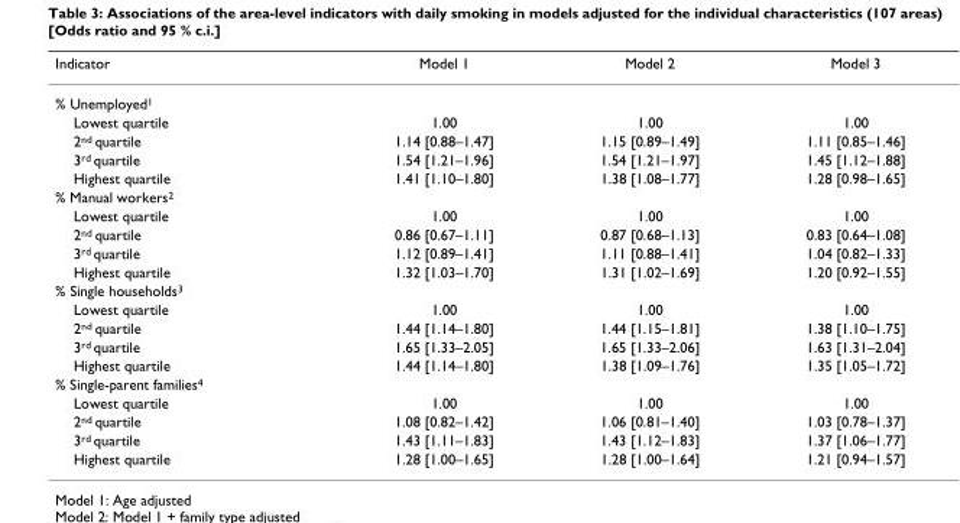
<table><thead><tr><td>Indicator</td><td>Model 1</td><td>Model 2</td><td>Model 3</td></tr></thead><tbody><tr><td colspan="4">% Unemployed<sup>1</sup></td></tr><tr><td>Lowest quartile</td><td>1.00</td><td>1.00</td><td>1.00</td></tr><tr><td>2<sup>nd</sup> quartile</td><td>1.14 [0.88–1.47]</td><td>1.15 [0.89–1.49]</td><td>1.11 [0.85–1.46]</td></tr><tr><td>3<sup>rd</sup> quartile</td><td>1.54 [1.21–1.96]</td><td>1.54 [1.21–1.97]</td><td>1.45 [1.12–1.88]</td></tr><tr><td>Highest quartile</td><td>1.41 [1.10–1.80]</td><td>1.38 [1.08–1.77]</td><td>1.28 [0.98–1.65]</td></tr><tr><td colspan="4">% Manual workers<sup>2</sup></td></tr><tr><td>Lowest quartile</td><td>1.00</td><td>1.00</td><td>1.00</td></tr><tr><td>2<sup>nd</sup> quartile</td><td>0.86 [0.67–1.11]</td><td>0.87 [0.68–1.13]</td><td>0.83 [0.64–1.08]</td></tr><tr><td>3<sup>rd</sup> quartile</td><td>1.12 [0.89–1.41]</td><td>1.11 [0.88–1.41]</td><td>1.04 [0.82–1.33]</td></tr><tr><td>Highest quartile</td><td>1.32 [1.03–1.70]</td><td>1.31 [1.02–1.69]</td><td>1.20 [0.92–1.55]</td></tr><tr><td colspan="4">% Single households<sup>3</sup></td></tr><tr><td>Lowest quartile</td><td>1.00</td><td>1.00</td><td>1.00</td></tr><tr><td>2<sup>nd</sup> quartile</td><td>1.44 [1.14–1.80]</td><td>1.44 [1.15–1.81]</td><td>1.38 [1.10–1.75]</td></tr><tr><td>3<sup>rd</sup> quartile</td><td>1.65 [1.33–2.05]</td><td>1.65 [1.33–2.06]</td><td>1.63 [1.31–2.04]</td></tr><tr><td>Highest quartile</td><td>1.44 [1.14–1.80]</td><td>1.38 [1.09–1.76]</td><td>1.35 [1.05–1.72]</td></tr><tr><td colspan="4">% Single-parent families<sup>4</sup></td></tr><tr><td>Lowest quartile</td><td>1.00</td><td>1.00</td><td>1.00</td></tr><tr><td>2<sup>nd</sup> quartile</td><td>1.08 [0.82–1.42]</td><td>1.06 [0.81–1.40]</td><td>1.03 [0.78–1.37]</td></tr><tr><td>3<sup>rd</sup> quartile</td><td>1.43 [1.11–1.83]</td><td>1.43 [1.12–1.83]</td><td>1.37 [1.06–1.77]</td></tr><tr><td>Highest quartile</td><td>1.28 [1.00–1.65]</td><td>1.28 [1.00–1.64]</td><td>1.21 [0.94–1.57]</td></tr></tbody></table>